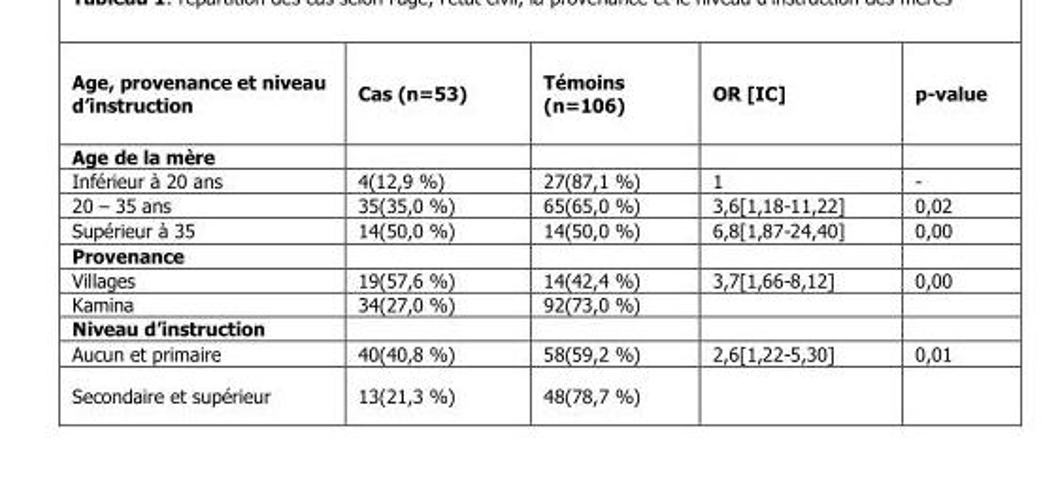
<table><thead><tr><td>Age, provenance et niveau d’instruction</td><td>Cas (n=53)</td><td>Témoins (n=106)</td><td>OR [IC]</td><td>p-value</td></tr></thead><tbody><tr><td colspan="5">Age de la mère</td></tr><tr><td>Inférieur à 20 ans</td><td>4(12,9 %)</td><td>27(87,1 %)</td><td>1</td><td>-</td></tr><tr><td>20 – 35 ans</td><td>35(35,0 %)</td><td>65(65,0 %)</td><td>3,6[1,18-11,22]</td><td>0,02</td></tr><tr><td>Supérieur à 35</td><td>14(50,0 %)</td><td>14(50,0 %)</td><td>6,8[1,87-24,40]</td><td>0,00</td></tr><tr><td colspan="5">Provenance</td></tr><tr><td>Villages</td><td>19(57,6 %)</td><td>14(42,4 %)</td><td>3,7[1,66-8,12]</td><td>0,00</td></tr><tr><td>Kamina</td><td>34(27,0 %)</td><td>92(73,0 %)</td><td></td><td></td></tr><tr><td colspan="5">Niveau d’instruction</td></tr><tr><td>Aucun et primaire</td><td>40(40,8 %)</td><td>58(59,2 %)</td><td>2,6[1,22-5,30]</td><td>0,01</td></tr><tr><td>Secondaire et supérieur</td><td>13(21,3 %)</td><td>48(78,7 %)</td><td></td><td></td></tr></tbody></table>